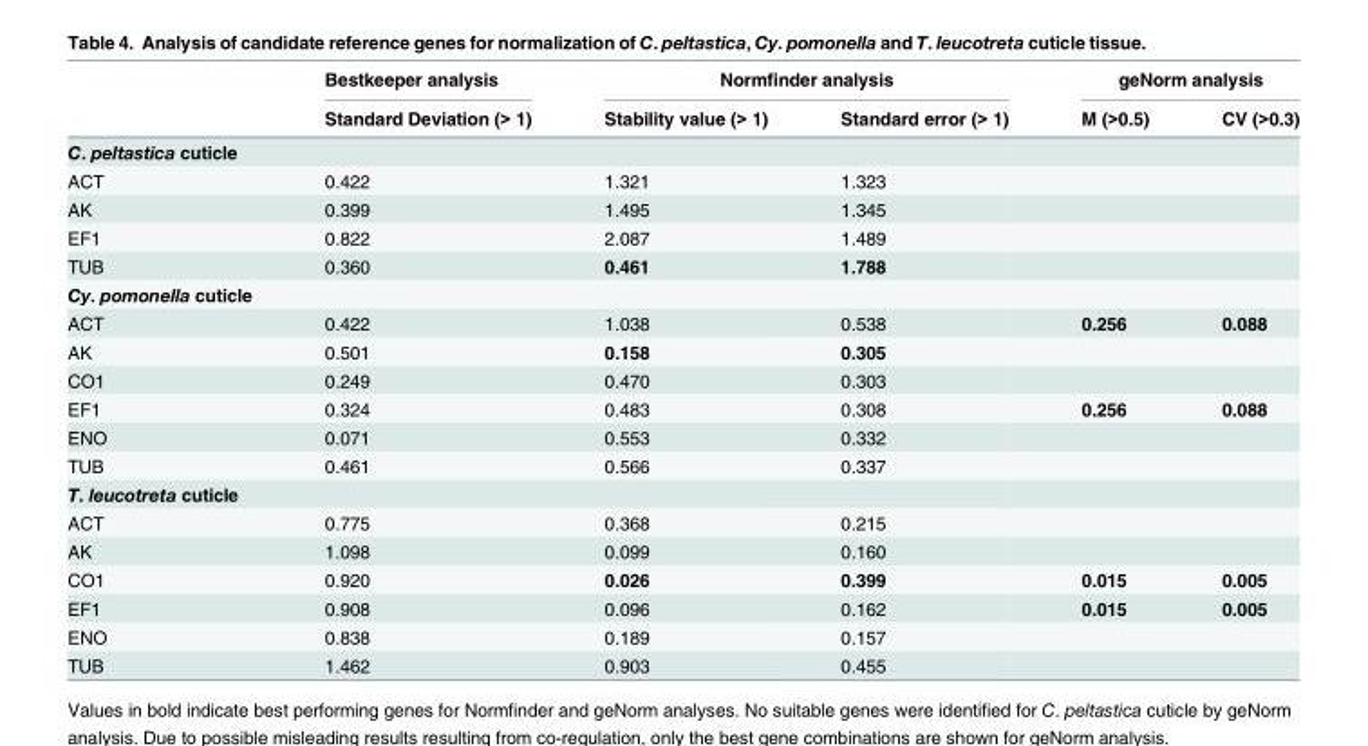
<table><thead><tr><td rowspan="2"></td><td rowspan="2">Bestkeeper analysis Standard Deviation (&gt; 1)</td><td colspan="2">Normfinder analysis</td><td colspan="2">geNorm analysis</td></tr><tr><td>Stability value (&gt; 1)</td><td>Standard error (&gt; 1)</td><td>M (&gt;0.5)</td><td>CV (&gt;0.3)</td></tr></thead><tbody><tr><td colspan="6">C. peltastica cuticle</td></tr><tr><td>ACT</td><td>0.422</td><td>1.321</td><td>1.323</td><td></td><td></td></tr><tr><td>AK</td><td>0.399</td><td>1.495</td><td>1.345</td><td></td><td></td></tr><tr><td>EF1</td><td>0.822</td><td>2.087</td><td>1.489</td><td></td><td></td></tr><tr><td>TUB</td><td>0.360</td><td>0.461</td><td>1.788</td><td></td><td></td></tr><tr><td colspan="6">Cy. pomonella cuticle</td></tr><tr><td>ACT</td><td>0.422</td><td>1.038</td><td>0.538</td><td>0.256</td><td>0.088</td></tr><tr><td>AK</td><td>0.501</td><td>0.158</td><td>0.305</td><td></td><td></td></tr><tr><td>CO1</td><td>0.249</td><td>0.470</td><td>0.303</td><td></td><td></td></tr><tr><td>EF1</td><td>0.324</td><td>0.483</td><td>0.308</td><td>0.256</td><td>0.088</td></tr><tr><td>ENO</td><td>0.071</td><td>0.553</td><td>0.332</td><td></td><td></td></tr><tr><td>TUB</td><td>0.461</td><td>0.566</td><td>0.337</td><td></td><td></td></tr><tr><td colspan="6">T. leucotreta cuticle</td></tr><tr><td>ACT</td><td>0.775</td><td>0.368</td><td>0.215</td><td></td><td></td></tr><tr><td>AK</td><td>1.098</td><td>0.099</td><td>0.160</td><td></td><td></td></tr><tr><td>CO1</td><td>0.920</td><td>0.026</td><td>0.399</td><td>0.015</td><td>0.005</td></tr><tr><td>EF1</td><td>0.908</td><td>0.096</td><td>0.162</td><td>0.015</td><td>0.005</td></tr><tr><td>ENO</td><td>0.838</td><td>0.189</td><td>0.157</td><td></td><td></td></tr><tr><td>TUB</td><td>1.462</td><td>0.903</td><td>0.455</td><td></td><td></td></tr></tbody></table>